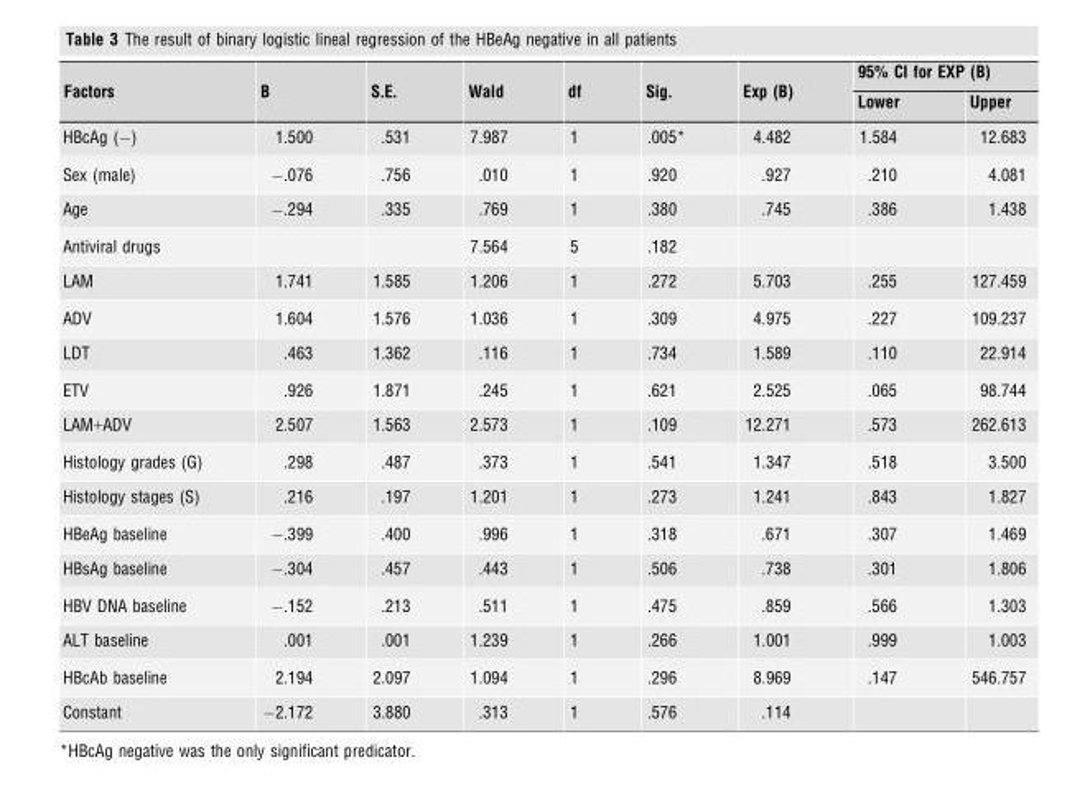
<table><thead><tr><td rowspan="2">Factors</td><td rowspan="2">B</td><td rowspan="2">S.E.</td><td rowspan="2">Wald</td><td rowspan="2">df</td><td rowspan="2">Sig.</td><td rowspan="2">Exp (B)</td><td colspan="2">95% CI for EXP (B)</td></tr><tr><td>Lower</td><td>Upper</td></tr></thead><tbody><tr><td>HBcAg (−)</td><td>1.500</td><td>.531</td><td>7.987</td><td>1</td><td>.005*</td><td>4.482</td><td>1.584</td><td>12.683</td></tr><tr><td>Sex (male)</td><td>−.076</td><td>.756</td><td>.010</td><td>1</td><td>.920</td><td>.927</td><td>.210</td><td>4.081</td></tr><tr><td>Age</td><td>−.294</td><td>.335</td><td>.769</td><td>1</td><td>.380</td><td>.745</td><td>.386</td><td>1.438</td></tr><tr><td>Antiviral drugs</td><td></td><td></td><td>7.564</td><td>5</td><td>.182</td><td></td><td></td><td></td></tr><tr><td>LAM</td><td>1.741</td><td>1.585</td><td>1.206</td><td>1</td><td>.272</td><td>5.703</td><td>.255</td><td>127.459</td></tr><tr><td>ADV</td><td>1.604</td><td>1.576</td><td>1.036</td><td>1</td><td>.309</td><td>4.975</td><td>.227</td><td>109.237</td></tr><tr><td>LDT</td><td>.463</td><td>1.362</td><td>.116</td><td>1</td><td>.734</td><td>1.589</td><td>.110</td><td>22.914</td></tr><tr><td>ETV</td><td>.926</td><td>1.871</td><td>.245</td><td>1</td><td>.621</td><td>2.525</td><td>.065</td><td>98.744</td></tr><tr><td>LAM+ADV</td><td>2.507</td><td>1.563</td><td>2.573</td><td>1</td><td>.109</td><td>12.271</td><td>.573</td><td>262.613</td></tr><tr><td>Histology grades (G)</td><td>.298</td><td>.487</td><td>.373</td><td>1</td><td>.541</td><td>1.347</td><td>.518</td><td>3.500</td></tr><tr><td>Histology stages (S)</td><td>.216</td><td>.197</td><td>1.201</td><td>1</td><td>.273</td><td>1.241</td><td>.843</td><td>1.827</td></tr><tr><td>HBeAg baseline</td><td>−.399</td><td>.400</td><td>.996</td><td>1</td><td>.318</td><td>.671</td><td>.307</td><td>1.469</td></tr><tr><td>HBsAg baseline</td><td>−.304</td><td>.457</td><td>.443</td><td>1</td><td>.506</td><td>.738</td><td>.301</td><td>1.806</td></tr><tr><td>HBV DNA baseline</td><td>−.152</td><td>.213</td><td>.511</td><td>1</td><td>.475</td><td>.859</td><td>.566</td><td>1.303</td></tr><tr><td>ALT baseline</td><td>.001</td><td>.001</td><td>1.239</td><td>1</td><td>.266</td><td>1.001</td><td>.999</td><td>1.003</td></tr><tr><td>HBcAb baseline</td><td>2.194</td><td>2.097</td><td>1.094</td><td>1</td><td>.296</td><td>8.969</td><td>.147</td><td>546.757</td></tr><tr><td>Constant</td><td>−2.172</td><td>3.880</td><td>.313</td><td>1</td><td>.576</td><td>.114</td><td></td><td></td></tr></tbody></table>